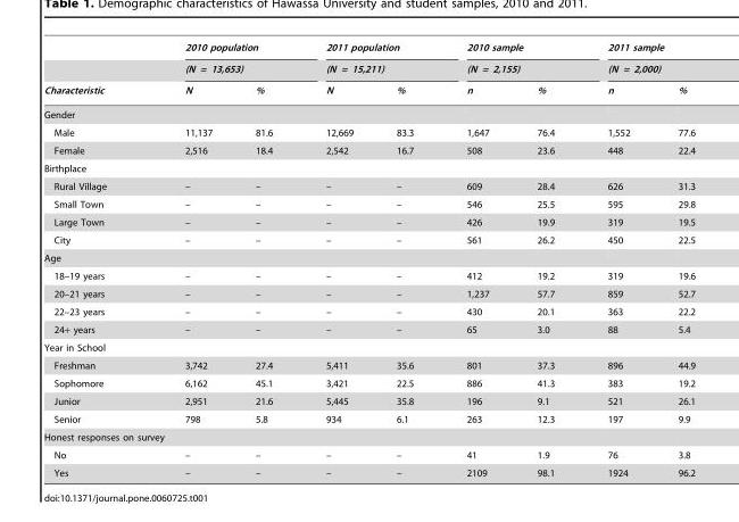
<table><thead><tr><td rowspan="3">Characteristic</td><td rowspan="2" colspan="2">2010 population (N = 13,653)</td><td rowspan="2" colspan="2">2011 population (N = 15,211)</td><td rowspan="2" colspan="2">2010 sample (N = 2,155)</td><td rowspan="2" colspan="2">2011 sample (N = 2,000)</td></tr><tr></tr><tr><td>N</td><td>%</td><td>N</td><td>%</td><td>n</td><td>%</td><td>n</td><td>%</td></tr></thead><tbody><tr><td colspan="9">Gender</td></tr><tr><td>Male</td><td>11,137</td><td>81.6</td><td>12,669</td><td>83.3</td><td>1,647</td><td>76.4</td><td>1,552</td><td>77.6</td></tr><tr><td>Female</td><td>2,516</td><td>18.4</td><td>2,542</td><td>16.7</td><td>508</td><td>23.6</td><td>448</td><td>22.4</td></tr><tr><td colspan="9">Birthplace</td></tr><tr><td>Rural Village</td><td>–</td><td>–</td><td>–</td><td>–</td><td>609</td><td>28.4</td><td>626</td><td>31.3</td></tr><tr><td>Small Town</td><td>–</td><td>–</td><td>–</td><td>–</td><td>546</td><td>25.5</td><td>595</td><td>29.8</td></tr><tr><td>Large Town</td><td>–</td><td>–</td><td>–</td><td>–</td><td>426</td><td>19.9</td><td>319</td><td>19.5</td></tr><tr><td>City</td><td>–</td><td>–</td><td>–</td><td>–</td><td>561</td><td>26.2</td><td>450</td><td>22.5</td></tr><tr><td colspan="9">Age</td></tr><tr><td>18–19 years</td><td>–</td><td>–</td><td>–</td><td>–</td><td>412</td><td>19.2</td><td>319</td><td>19.6</td></tr><tr><td>20–21 years</td><td>–</td><td>–</td><td>–</td><td>–</td><td>1,237</td><td>57.7</td><td>859</td><td>52.7</td></tr><tr><td>22–23 years</td><td>–</td><td>–</td><td>–</td><td>–</td><td>430</td><td>20.1</td><td>363</td><td>22.2</td></tr><tr><td>24+ years</td><td>–</td><td>–</td><td>–</td><td>–</td><td>65</td><td>3.0</td><td>88</td><td>5.4</td></tr><tr><td colspan="9">Year in School</td></tr><tr><td>Freshman</td><td>3,742</td><td>27.4</td><td>5,411</td><td>35.6</td><td>801</td><td>37.3</td><td>896</td><td>44.9</td></tr><tr><td>Sophomore</td><td>6,162</td><td>45.1</td><td>3,421</td><td>22.5</td><td>886</td><td>41.3</td><td>383</td><td>19.2</td></tr><tr><td>Junior</td><td>2,951</td><td>21.6</td><td>5,445</td><td>35.8</td><td>196</td><td>9.1</td><td>521</td><td>26.1</td></tr><tr><td>Senior</td><td>798</td><td>5.8</td><td>934</td><td>6.1</td><td>263</td><td>12.3</td><td>197</td><td>9.9</td></tr><tr><td colspan="9">Honest responses on survey</td></tr><tr><td>No</td><td>–</td><td>–</td><td>–</td><td>–</td><td>41</td><td>1.9</td><td>76</td><td>3.8</td></tr><tr><td>Yes</td><td>–</td><td>–</td><td>–</td><td>–</td><td>2109</td><td>98.1</td><td>1924</td><td>96.2</td></tr></tbody></table>